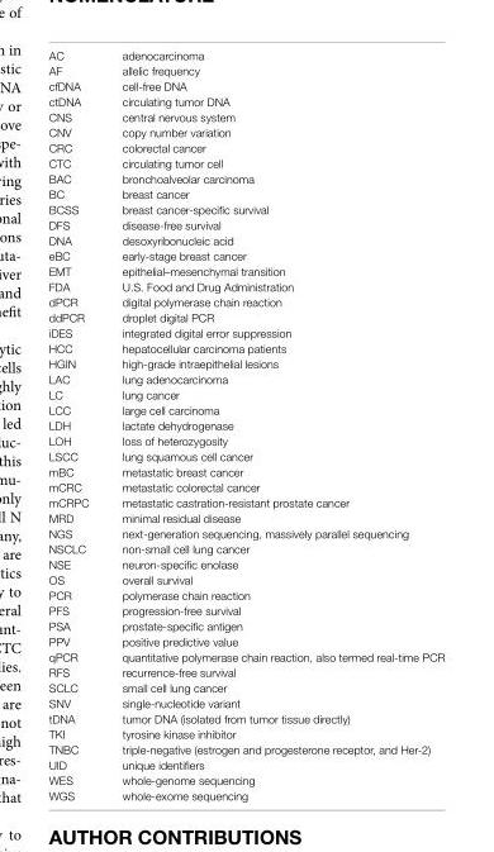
<table><tbody><tr><td>AC</td><td>adenocarcinoma</td></tr><tr><td>AF</td><td>allelic frequency</td></tr><tr><td>cfDNA</td><td>cell-free DNA</td></tr><tr><td>ctDNA</td><td>circulating tumor DNA</td></tr><tr><td>CNS</td><td>central nervous system</td></tr><tr><td>CNV</td><td>copy number variation</td></tr><tr><td>CRC</td><td>colorectal cancer</td></tr><tr><td>CTC</td><td>circulating tumor cell</td></tr><tr><td>BAC</td><td>bronchoalveolar carcinoma</td></tr><tr><td>BC</td><td>breast cancer</td></tr><tr><td>BCSS</td><td>breast cancer-specific survival</td></tr><tr><td>DFS</td><td>disease-free survival</td></tr><tr><td>DNA</td><td>desoxyribonucleic acid</td></tr><tr><td>eBC</td><td>early-stage breast cancer</td></tr><tr><td>EMT</td><td>epithelial–mesenchymal transition</td></tr><tr><td>FDA</td><td>U.S. Food and Drug Administration</td></tr><tr><td>dPCR</td><td>digital polymerase chain reaction</td></tr><tr><td>ddPCR</td><td>droplet digital PCR</td></tr><tr><td>iDES</td><td>integrated digital error suppression</td></tr><tr><td>HCC</td><td>hepatocellular carcinoma patients</td></tr><tr><td>HGIN</td><td>high-grade intraepithelial lesions</td></tr><tr><td>LAC</td><td>lung adenocarcinoma</td></tr><tr><td>LC</td><td>lung cancer</td></tr><tr><td>LCC</td><td>large cell carcinoma</td></tr><tr><td>LDH</td><td>lactate dehydrogenase</td></tr><tr><td>LOH</td><td>loss of heterozygosity</td></tr><tr><td>LSCC</td><td>lung squamous cell cancer</td></tr><tr><td>mBC</td><td>metastatic breast cancer</td></tr><tr><td>mCRC</td><td>metastatic colorectal cancer</td></tr><tr><td>mCRPC</td><td>metastatic castration-resistant prostate cancer</td></tr><tr><td>MRD</td><td>minimal residual disease</td></tr><tr><td>NGS</td><td>next-generation sequencing, massively parallel sequencing</td></tr><tr><td>NSCLC</td><td>non-small cell lung cancer</td></tr><tr><td>NSE</td><td>neuron-specific enolase</td></tr><tr><td>OS</td><td>overall survival</td></tr><tr><td>PCR</td><td>polymerase chain reaction</td></tr><tr><td>PFS</td><td>progression-free survival</td></tr><tr><td>PSA</td><td>prostate-specific antigen</td></tr><tr><td>PPV</td><td>positive predictive value</td></tr><tr><td>qPCR</td><td>quantitative polymerase chain reaction, also termed real-time PCR</td></tr><tr><td>RFS</td><td>recurrence-free survival</td></tr><tr><td>SCLC</td><td>small cell lung cancer</td></tr><tr><td>SNV</td><td>single-nucleotide variant</td></tr><tr><td>tDNA</td><td>tumor DNA (isolated from tumor tissue directly)</td></tr><tr><td>TKI</td><td>tyrosine kinase inhibitor</td></tr><tr><td>TNBC</td><td>triple-negative (estrogen and progesterone receptor, and Her-2)</td></tr><tr><td>UID</td><td>unique identifiers</td></tr><tr><td>WES</td><td>whole-genome sequencing</td></tr><tr><td>WGS</td><td>whole-exome sequencing</td></tr></tbody></table>